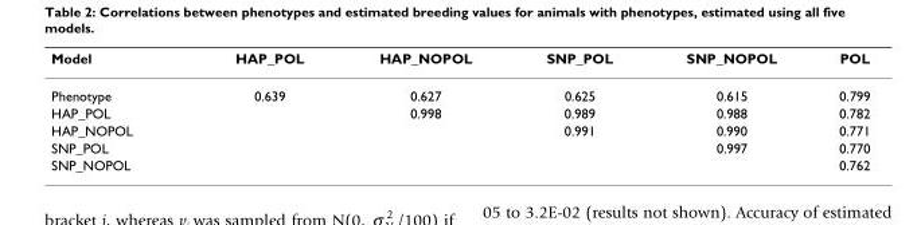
<table><thead><tr><td>Model</td><td>HAP_POL</td><td>HAP_NOPOL</td><td>SNP_POL</td><td>SNP_NOPOL</td><td>POL</td></tr></thead><tbody><tr><td>Phenotype</td><td>0.639</td><td>0.627</td><td>0.625</td><td>0.615</td><td>0.799</td></tr><tr><td>HAP_POL</td><td></td><td>0.998</td><td>0.989</td><td>0.988</td><td>0.782</td></tr><tr><td>HAP_NOPOL</td><td></td><td></td><td>0.991</td><td>0.990</td><td>0.771</td></tr><tr><td>SNP_POL</td><td></td><td></td><td></td><td>0.997</td><td>0.770</td></tr><tr><td>SNP_NOPOL</td><td></td><td></td><td></td><td></td><td>0.762</td></tr></tbody></table>